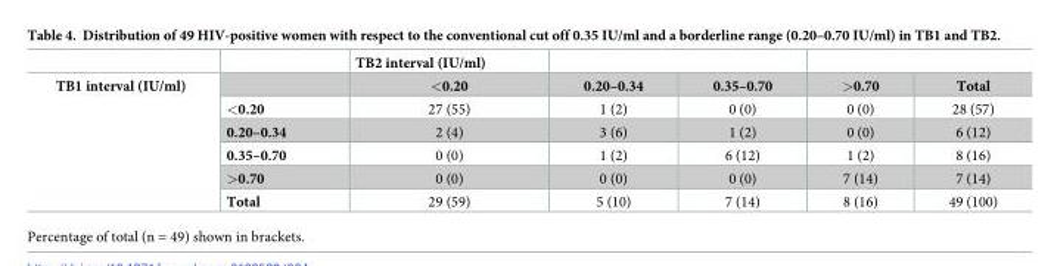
<table><thead><tr><td></td><td></td><td>TB2 interval (IU/ml)</td><td></td><td></td><td></td><td></td></tr></thead><tbody><tr><td rowspan="6">TB1 interval (IU/ml)</td><td></td><td>&lt;0.20</td><td>0.20–0.34</td><td>0.35–0.70</td><td>&gt;0.70</td><td>Total</td></tr><tr><td>&lt;0.20</td><td>27 (55)</td><td>1 (2)</td><td>0 (0)</td><td>0 (0)</td><td>28 (57)</td></tr><tr><td>0.20–0.34</td><td>2 (4)</td><td>3 (6)</td><td>1 (2)</td><td>0 (0)</td><td>6 (12)</td></tr><tr><td>0.35–0.70</td><td>0 (0)</td><td>1 (2)</td><td>6 (12)</td><td>1 (2)</td><td>8 (16)</td></tr><tr><td>&gt;0.70</td><td>0 (0)</td><td>0 (0)</td><td>0 (0)</td><td>7 (14)</td><td>7 (14)</td></tr><tr><td>Total</td><td>29 (59)</td><td>5 (10)</td><td>7 (14)</td><td>8 (16)</td><td>49 (100)</td></tr></tbody></table>